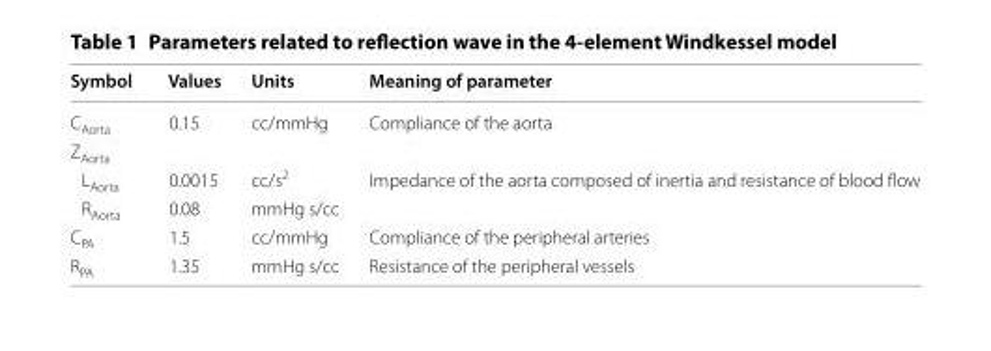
<table><thead><tr><td>Symbol</td><td>Values</td><td>Units</td><td>Meaning of parameter</td></tr></thead><tbody><tr><td>C<sub>Aorta</sub></td><td>0.15</td><td>cc/mmHg</td><td>Compliance of the aorta</td></tr><tr><td colspan="4">Z<sub>Aorta</sub></td></tr><tr><td>L<sub>Aorta</sub></td><td>0.0015</td><td>cc/s<sup>2</sup></td><td rowspan="2">Impedance of the aorta composed of inertia and resistance of blood flow</td></tr><tr><td>R<sub>Aorta</sub></td><td>0.08</td><td>mmHg s/cc</td></tr><tr><td>C<sub>PA</sub></td><td>1.5</td><td>cc/mmHg</td><td>Compliance of the peripheral arteries</td></tr><tr><td>R<sub>PA</sub></td><td>1.35</td><td>mmHg s/cc</td><td>Resistance of the peripheral vessels</td></tr></tbody></table>